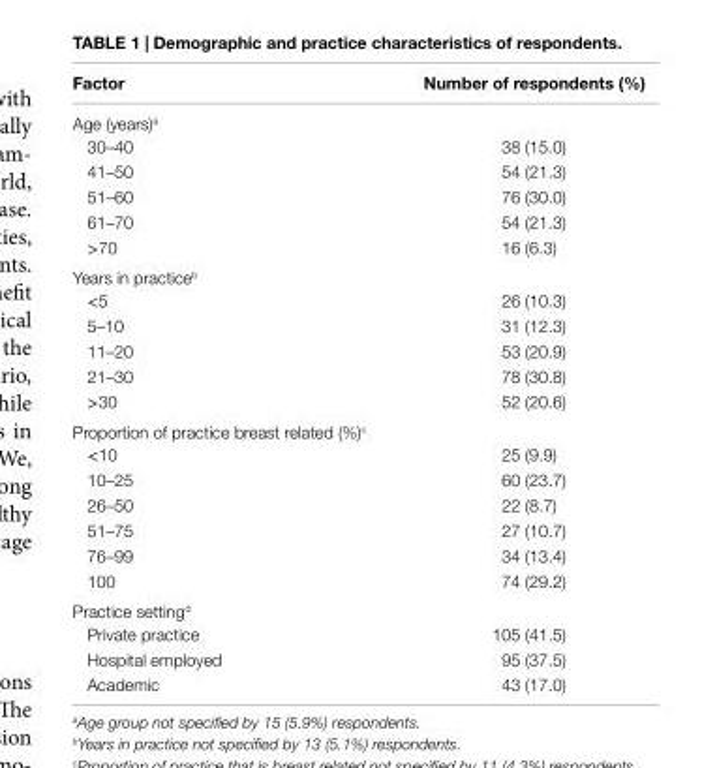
<table><thead><tr><td>Factor</td><td>number of respondents (%)</td></tr></thead><tbody><tr><td colspan="2">Age (years)<sup>a</sup></td></tr><tr><td>30–40</td><td>38 (15.0)</td></tr><tr><td>41–50</td><td>54 (21.3)</td></tr><tr><td>51–60</td><td>76 (30.0)</td></tr><tr><td>61–70</td><td>54 (21.3)</td></tr><tr><td>&gt;70</td><td>16 (6.3)</td></tr><tr><td colspan="2">Years in practice<sup>b</sup></td></tr><tr><td>&lt;5</td><td>26 (10.3)</td></tr><tr><td>5–10</td><td>31 (12.3)</td></tr><tr><td>11–20</td><td>53 (20.9)</td></tr><tr><td>21–30</td><td>78 (30.8)</td></tr><tr><td>&gt;30</td><td>52 (20.6)</td></tr><tr><td colspan="2">Proportion of practice breast related (%)<sup>c</sup></td></tr><tr><td>&lt;10</td><td>25 (9.9)</td></tr><tr><td>10–25</td><td>60 (23.7)</td></tr><tr><td>26–50</td><td>22 (8.7)</td></tr><tr><td>51–75</td><td>27 (10.7)</td></tr><tr><td>76–99</td><td>34 (13.4)</td></tr><tr><td>100</td><td>74 (29.2)</td></tr><tr><td colspan="2">Practice setting<sup>d</sup></td></tr><tr><td>Private practice</td><td>105 (41.5)</td></tr><tr><td>Hospital employed</td><td>95 (37.5)</td></tr><tr><td>Academic</td><td>43 (17.0)</td></tr></tbody></table>